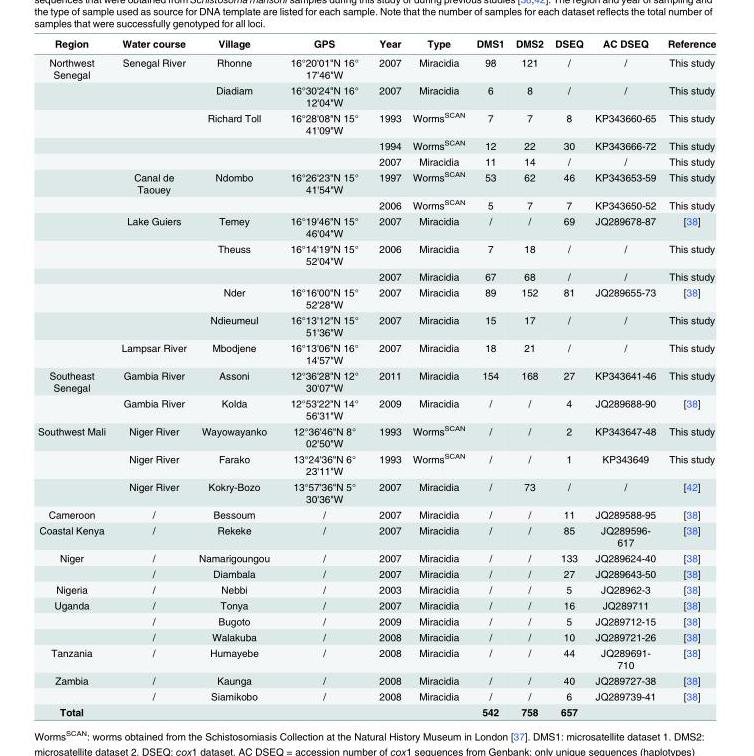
<table><thead><tr><td>Region</td><td>Water course</td><td>Village</td><td>GPS</td><td>Year</td><td>Type</td><td>DMS1</td><td>DMS2</td><td>DSEQ</td><td>AC DSEQ</td><td>Reference</td></tr></thead><tbody><tr><td rowspan="13">Northwest Senegal</td><td>Senegal River</td><td>Rhonne</td><td>16°20&#x27;01&quot;N 16° 17&#x27;46&quot;W</td><td>2007</td><td>Miracidia</td><td>98</td><td>121</td><td>/</td><td>/</td><td>This study</td></tr><tr><td></td><td>Diadiam</td><td>16°30&#x27;24&quot;N 16° 12&#x27;04&quot;W</td><td>2007</td><td>Miracidia</td><td>6</td><td>8</td><td>/</td><td>/</td><td>This study</td></tr><tr><td></td><td>Richard Toll</td><td>16°28&#x27;08&quot;N 15° 41&#x27;09&quot;W</td><td>1993</td><td>Worms<sup>SCAN</sup></td><td>7</td><td>7</td><td>8</td><td>KP343660-65</td><td>This study</td></tr><tr><td></td><td></td><td></td><td>1994</td><td>Worms<sup>SCAN</sup></td><td>12</td><td>22</td><td>30</td><td>KP343666-72</td><td>This study</td></tr><tr><td></td><td></td><td></td><td>2007</td><td>Miracidia</td><td>11</td><td>14</td><td>/</td><td>/</td><td>This study</td></tr><tr><td>Canal de Taouey</td><td>Ndombo</td><td>16°26&#x27;23&quot;N 15° 41&#x27;54&quot;W</td><td>1997</td><td>Worms<sup>SCAN</sup></td><td>53</td><td>62</td><td>46</td><td>KP343653-59</td><td>This study</td></tr><tr><td></td><td></td><td></td><td>2006</td><td>Worms<sup>SCAN</sup></td><td>5</td><td>7</td><td>7</td><td>KP343650-52</td><td>This study</td></tr><tr><td>Lake Guiers</td><td>Temey</td><td>16°19&#x27;46&quot;N 15° 46&#x27;04&quot;W</td><td>2007</td><td>Miracidia</td><td>/</td><td>/</td><td>69</td><td>JQ289678-87</td><td>[38]</td></tr><tr><td></td><td>Theuss</td><td>16°14&#x27;19&quot;N 15° 52&#x27;04&quot;W</td><td>2006</td><td>Miracidia</td><td>7</td><td>18</td><td>/</td><td>/</td><td>This study</td></tr><tr><td></td><td></td><td></td><td>2007</td><td>Miracidia</td><td>67</td><td>68</td><td>/</td><td>/</td><td>This study</td></tr><tr><td></td><td>Nder</td><td>16°16&#x27;00&quot;N 15° 52&#x27;28&quot;W</td><td>2007</td><td>Miracidia</td><td>89</td><td>152</td><td>81</td><td>JQ289655-73</td><td>[38]</td></tr><tr><td></td><td>Ndieumeul</td><td>16°13&#x27;12&quot;N 15° 51&#x27;36&quot;W</td><td>2007</td><td>Miracidia</td><td>15</td><td>17</td><td>/</td><td>/</td><td>This study</td></tr><tr><td>Lampsar River</td><td>Mbodjene</td><td>16°13&#x27;06&quot;N 16° 14&#x27;57&quot;W</td><td>2007</td><td>Miracidia</td><td>18</td><td>21</td><td>/</td><td>/</td><td>This study</td></tr><tr><td rowspan="2">Southeast Senegal</td><td>Gambia River</td><td>Assoni</td><td>12°36&#x27;28&quot;N 12° 30&#x27;07&quot;W</td><td>2011</td><td>Miracidia</td><td>154</td><td>168</td><td>27</td><td>KP343641-46</td><td>This study</td></tr><tr><td>Gambia River</td><td>Kolda</td><td>12°53&#x27;22&quot;N 14° 56&#x27;31&quot;W</td><td>2009</td><td>Miracidia</td><td>/</td><td>/</td><td>4</td><td>JQ289688-90</td><td>[38]</td></tr><tr><td rowspan="3">Southwest Mali</td><td>Niger River</td><td>Wayowayanko</td><td>12°36&#x27;46&quot;N 8° 02&#x27;50&quot;W</td><td>1993</td><td>Worms<sup>SCAN</sup></td><td>/</td><td>/</td><td>2</td><td>KP343647-48</td><td>This study</td></tr><tr><td>Niger River</td><td>Farako</td><td>13°24&#x27;36&quot;N 6° 23&#x27;11&quot;W</td><td>1993</td><td>Worms<sup>SCAN</sup></td><td>/</td><td>/</td><td>1</td><td>KP343649</td><td>This study</td></tr><tr><td>Niger River</td><td>Kokry-Bozo</td><td>13°57&#x27;36&quot;N 5° 30&#x27;36&quot;W</td><td>2007</td><td>Miracidia</td><td>/</td><td>73</td><td>/</td><td>/</td><td>[42]</td></tr><tr><td>Cameroon</td><td>/</td><td>Bessoum</td><td>/</td><td>2007</td><td>Miracidia</td><td>/</td><td>/</td><td>11</td><td>JQ289588-95</td><td>[38]</td></tr><tr><td>Coastal Kenya</td><td>/</td><td>Rekeke</td><td>/</td><td>2007</td><td>Miracidia</td><td>/</td><td>/</td><td>85</td><td>JQ289596- 617</td><td>[38]</td></tr><tr><td rowspan="2">Niger</td><td>/</td><td>Namarigoungou</td><td>/</td><td>2007</td><td>Miracidia</td><td>/</td><td>/</td><td>133</td><td>JQ289624-40</td><td>[38]</td></tr><tr><td>/</td><td>Diambala</td><td>/</td><td>2007</td><td>Miracidia</td><td>/</td><td>/</td><td>27</td><td>JQ289643-50</td><td>[38]</td></tr><tr><td>Nigeria</td><td>/</td><td>Nebbi</td><td>/</td><td>2003</td><td>Miracidia</td><td>/</td><td>/</td><td>5</td><td>JQ28962-3</td><td>[38]</td></tr><tr><td rowspan="3">Uganda</td><td>/</td><td>Tonya</td><td>/</td><td>2007</td><td>Miracidia</td><td>/</td><td>/</td><td>16</td><td>JQ289711</td><td>[38]</td></tr><tr><td>/</td><td>Bugoto</td><td>/</td><td>2009</td><td>Miracidia</td><td>/</td><td>/</td><td>5</td><td>JQ289712-15</td><td>[38]</td></tr><tr><td>/</td><td>Walakuba</td><td>/</td><td>2008</td><td>Miracidia</td><td>/</td><td>/</td><td>10</td><td>JQ289721-26</td><td>[38]</td></tr><tr><td>Tanzania</td><td>/</td><td>Humayebe</td><td>/</td><td>2008</td><td>Miracidia</td><td>/</td><td>/</td><td>44</td><td>JQ289691- 710</td><td>[38]</td></tr><tr><td rowspan="2">Zambia</td><td>/</td><td>Kaunga</td><td>/</td><td>2008</td><td>Miracidia</td><td>/</td><td>/</td><td>40</td><td>JQ289727-38</td><td>[38]</td></tr><tr><td>/</td><td>Siamikobo</td><td>/</td><td>2008</td><td>Miracidia</td><td>/</td><td>/</td><td>6</td><td>JQ289739-41</td><td>[38]</td></tr><tr><td>Total</td><td></td><td></td><td></td><td></td><td></td><td>542</td><td>758</td><td>657</td><td></td><td></td></tr></tbody></table>